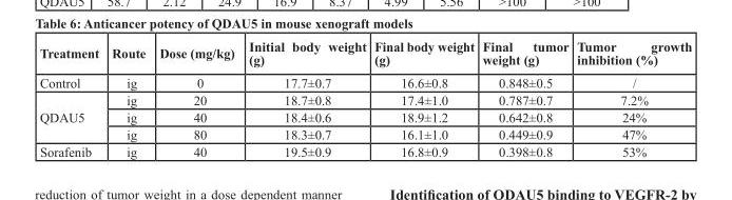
<table><thead><tr><td>Treatment</td><td>Route</td><td>Dose (mg/kg)</td><td>Initial body weight (g)</td><td>Final body weight (g)</td><td>Final tumor weight (g)</td><td>Tumor growth inhibition (%)</td></tr></thead><tbody><tr><td>Control</td><td>ig</td><td>0</td><td>17.7±0.7</td><td>16.6±0.8</td><td>0.848±0.5</td><td>/</td></tr><tr><td rowspan="3">QDAU5</td><td>ig</td><td>20</td><td>18.7±0.8</td><td>17.4±1.0</td><td>0.787±0.7</td><td>7.2%</td></tr><tr><td>ig</td><td>40</td><td>18.4±0.6</td><td>18.9±1.2</td><td>0.642±0.8</td><td>24%</td></tr><tr><td>ig</td><td>80</td><td>18.3±0.7</td><td>16.1±1.0</td><td>0.449±0.9</td><td>47%</td></tr><tr><td>Sorafenib</td><td>ig</td><td>40</td><td>19.5±0.9</td><td>16.8±0.9</td><td>0.398±0.8</td><td>53%</td></tr></tbody></table>